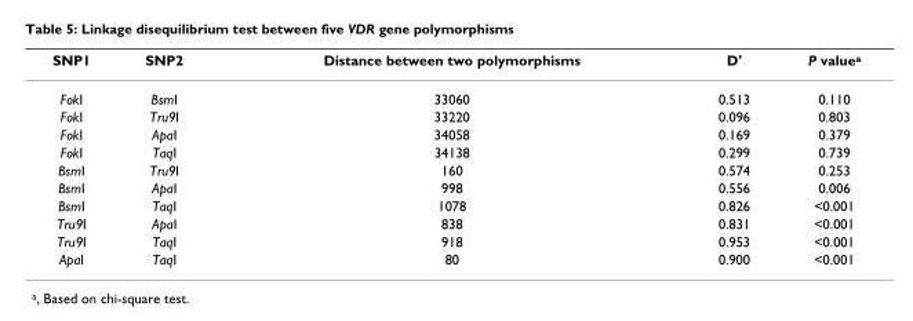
<table><thead><tr><td>SNP1</td><td>SNP2</td><td>Distance between two polymorphisms</td><td>D&#x27;</td><td>P value<sup>a</sup></td></tr></thead><tbody><tr><td>FokI</td><td>BsmI</td><td>33060</td><td>0.513</td><td>0.110</td></tr><tr><td>FokI</td><td>Tru9I</td><td>33220</td><td>0.096</td><td>0.803</td></tr><tr><td>FokI</td><td>ApaI</td><td>34058</td><td>0.169</td><td>0.379</td></tr><tr><td>FokI</td><td>TaqI</td><td>34138</td><td>0.299</td><td>0.739</td></tr><tr><td>BsmI</td><td>Tru9I</td><td>160</td><td>0.574</td><td>0.253</td></tr><tr><td>BsmI</td><td>ApaI</td><td>998</td><td>0.556</td><td>0.006</td></tr><tr><td>BsmI</td><td>TaqI</td><td>1078</td><td>0.826</td><td>&lt;0.001</td></tr><tr><td>Tru9I</td><td>ApaI</td><td>838</td><td>0.831</td><td>&lt;0.001</td></tr><tr><td>Tru9I</td><td>TaqI</td><td>918</td><td>0.953</td><td>&lt;0.001</td></tr><tr><td>ApaI</td><td>TaqI</td><td>80</td><td>0.900</td><td>&lt;0.001</td></tr></tbody></table>